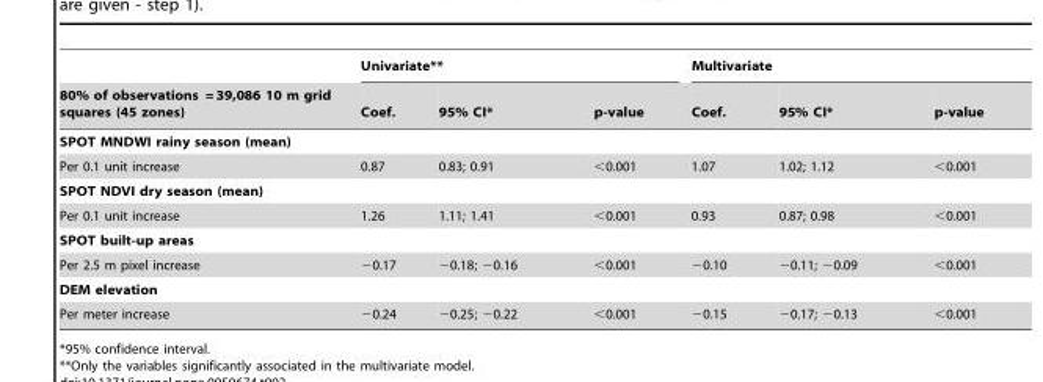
<table><thead><tr><td rowspan="2">80% of observations = 39,086 10 m grid squares (45 zones)</td><td colspan="3">Univariate**</td><td colspan="3">Multivariate</td></tr><tr><td>Coef.</td><td>95% CI*</td><td>p-value</td><td>Coef.</td><td>95% CI*</td><td>p-value</td></tr></thead><tbody><tr><td colspan="7">SPOT MNDWI rainy season (mean)</td></tr><tr><td>Per 0.1 unit increase</td><td>0.87</td><td>0.83; 0.91</td><td>&lt;0.001</td><td>1.07</td><td>1.02; 1.12</td><td>&lt;0.001</td></tr><tr><td colspan="7">SPOT NDVI dry season (mean)</td></tr><tr><td>Per 0.1 unit increase</td><td>1.26</td><td>1.11; 1.41</td><td>&lt;0.001</td><td>0.93</td><td>0.87; 0.98</td><td>&lt;0.001</td></tr><tr><td colspan="7">SPOT built-up areas</td></tr><tr><td>Per 2.5 m pixel increase</td><td>−0.17</td><td>−0.18; −0.16</td><td>&lt;0.001</td><td>−0.10</td><td>−0.11; −0.09</td><td>&lt;0.001</td></tr><tr><td colspan="7">DEM elevation</td></tr><tr><td>Per meter increase</td><td>−0.24</td><td>−0.25; −0.22</td><td>&lt;0.001</td><td>−0.15</td><td>−0.17; −0.13</td><td>&lt;0.001</td></tr></tbody></table>